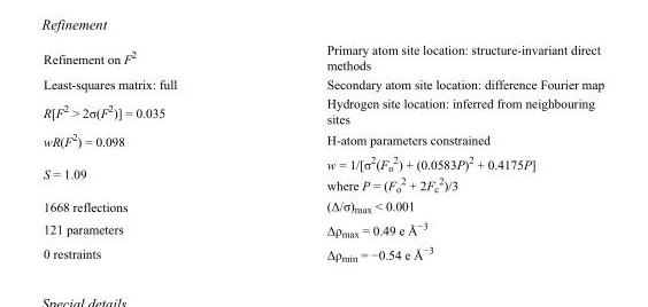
<table><tbody><tr><td>Refinement on F<sup>2</sup></td><td>Primary atom site location: structure-invariant direct methods</td></tr><tr><td>Least-squares matrix: full</td><td>Secondary atom site location: difference Fourier map</td></tr><tr><td>R[F<sup>2</sup> &gt; 2σ(F<sup>2</sup>)] = 0.035</td><td>Hydrogen site location: inferred from neighbouring sites</td></tr><tr><td>wR(F<sup>2</sup>) = 0.098</td><td>H-atom parameters constrained</td></tr><tr><td>S = 1.09</td><td>w = 1/[σ<sup>2</sup>(F<sub>o</sub> <sup>2</sup>) + (0.0583P)<sup>2</sup> + 0.4175P] where P = (F<sub>o</sub> <sup>2</sup> + 2F<sub>c</sub> <sup>2</sup>)/3</td></tr><tr><td>1668 reflections</td><td>(Δ/σ)<sub>max</sub> &lt; 0.001</td></tr><tr><td>121 parameters</td><td>Δρ<sub>max</sub> = 0.49 e Å<sup>−3</sup></td></tr><tr><td>0 restraints</td><td>Δρ<sub>min</sub> = −0.54 e Å<sup>−3</sup></td></tr></tbody></table>